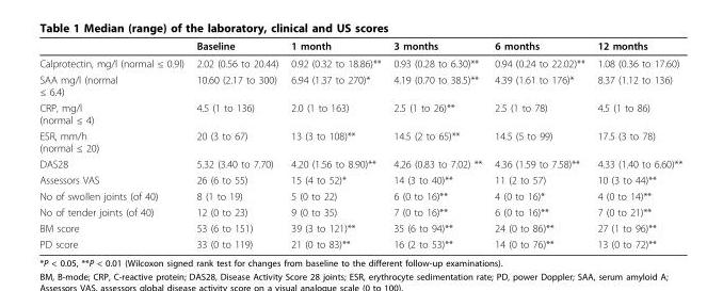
<table><thead><tr><td></td><td>Baseline</td><td>1 month</td><td>3 months</td><td>6 months</td><td>12 months</td></tr></thead><tbody><tr><td>Calprotectin, mg/l (normal ≤ 0.9l)</td><td>2.02 (0.56 to 20.44)</td><td>0.92 (0.32 to 18.86)**</td><td>0.93 (0.28 to 6.30)**</td><td>0.94 (0.24 to 22.02)**</td><td>1.08 (0.36 to 17.60)</td></tr><tr><td>SAA mg/l (normal ≤ 6.4)</td><td>10.60 (2.17 to 300)</td><td>6.94 (1.37 to 270)*</td><td>4.19 (0.70 to 38.5)**</td><td>4.39 (1.61 to 176)*</td><td>8.37 (1.12 to 136)</td></tr><tr><td>CRP, mg/l (normal ≤ 4)</td><td>4.5 (1 to 136)</td><td>2.0 (1 to 163)</td><td>2.5 (1 to 26)**</td><td>2.5 (1 to 78)</td><td>4.5 (1 to 86)</td></tr><tr><td>ESR, mm/h (normal ≤ 20)</td><td>20 (3 to 67)</td><td>13 (3 to 108)**</td><td>14.5 (2 to 65)**</td><td>14.5 (5 to 99)</td><td>17.5 (3 to 78)</td></tr><tr><td>DAS28</td><td>5.32 (3.40 to 7.70)</td><td>4.20 (1.56 to 8.90)**</td><td>4.26 (0.83 to 7.02) **</td><td>4.36 (1.59 to 7.58)**</td><td>4.33 (1.40 to 6.60)**</td></tr><tr><td>Assessors VAS</td><td>26 (6 to 55)</td><td>15 (4 to 52)*</td><td>14 (3 to 40)**</td><td>11 (2 to 57)</td><td>10 (3 to 44)**</td></tr><tr><td>No of swollen joints (of 40)</td><td>8 (1 to 19)</td><td>5 (0 to 22)</td><td>6 (0 to 16)**</td><td>4 (0 to 16)*</td><td>4 (0 to 14)**</td></tr><tr><td>No of tender joints (of 40)</td><td>12 (0 to 23)</td><td>9 (0 to 35)</td><td>7 (0 to 16)**</td><td>6 (0 to 16)**</td><td>7 (0 to 21)**</td></tr><tr><td>BM score</td><td>53 (6 to 151)</td><td>39 (3 to 121)**</td><td>35 (6 to 94)**</td><td>24 (0 to 86)**</td><td>27 (1 to 96)**</td></tr><tr><td>PD score</td><td>33 (0 to 119)</td><td>21 (0 to 83)**</td><td>16 (2 to 53)**</td><td>14 (0 to 76)**</td><td>13 (0 to 72)**</td></tr></tbody></table>